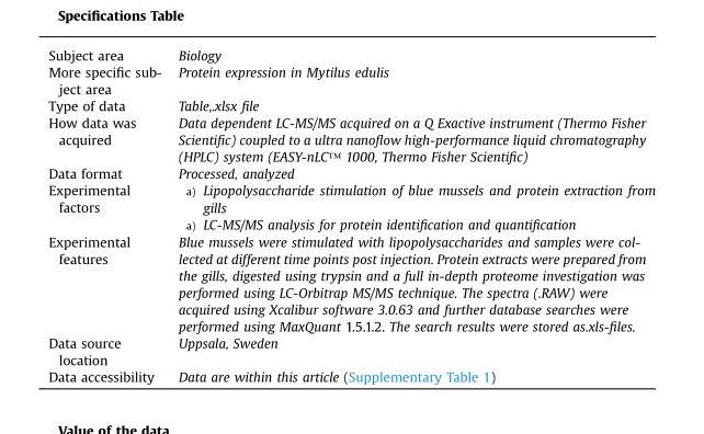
<table><tbody><tr><td>Subject area</td><td>Biology</td></tr><tr><td>More specific sub- ject area</td><td>Protein expression in Mytilus edulis</td></tr><tr><td>Type of data</td><td>Table,.xlsx file</td></tr><tr><td>How data was acquired</td><td>Data dependent LC-MS/MS acquired on a Q Exactive instrument (Thermo Fisher Scientific) coupled to a ultra nanoflow high-performance liquid chromatography (HPLC) system (EASY-nLC™ 1000, Thermo Fisher Scientific)</td></tr><tr><td>Data format</td><td>Processed, analyzed</td></tr><tr><td rowspan="2">Experimental factors</td><td>a) Lipopolysaccharide stimulation of blue mussels and protein extraction from gills</td></tr><tr><td>a) LC-MS/MS analysis for protein identification and quantification</td></tr><tr><td>Experimental features</td><td>Blue mussels were stimulated with lipopolysaccharides and samples were col- lected at different time points post injection. Protein extracts were prepared from the gills, digested using trypsin and a full in-depth proteome investigation was performed using LC-Orbitrap MS/MS technique. The spectra (.RAW) were acquired using Xcalibur software 3.0.63 and further database searches were performed using MaxQuant 1.5.1.2. The search results were stored as.xls-files.</td></tr><tr><td>Data source location</td><td>Uppsala, Sweden</td></tr><tr><td>Data accessibility</td><td>Data are within this article (Supplementary Table 1)</td></tr></tbody></table>